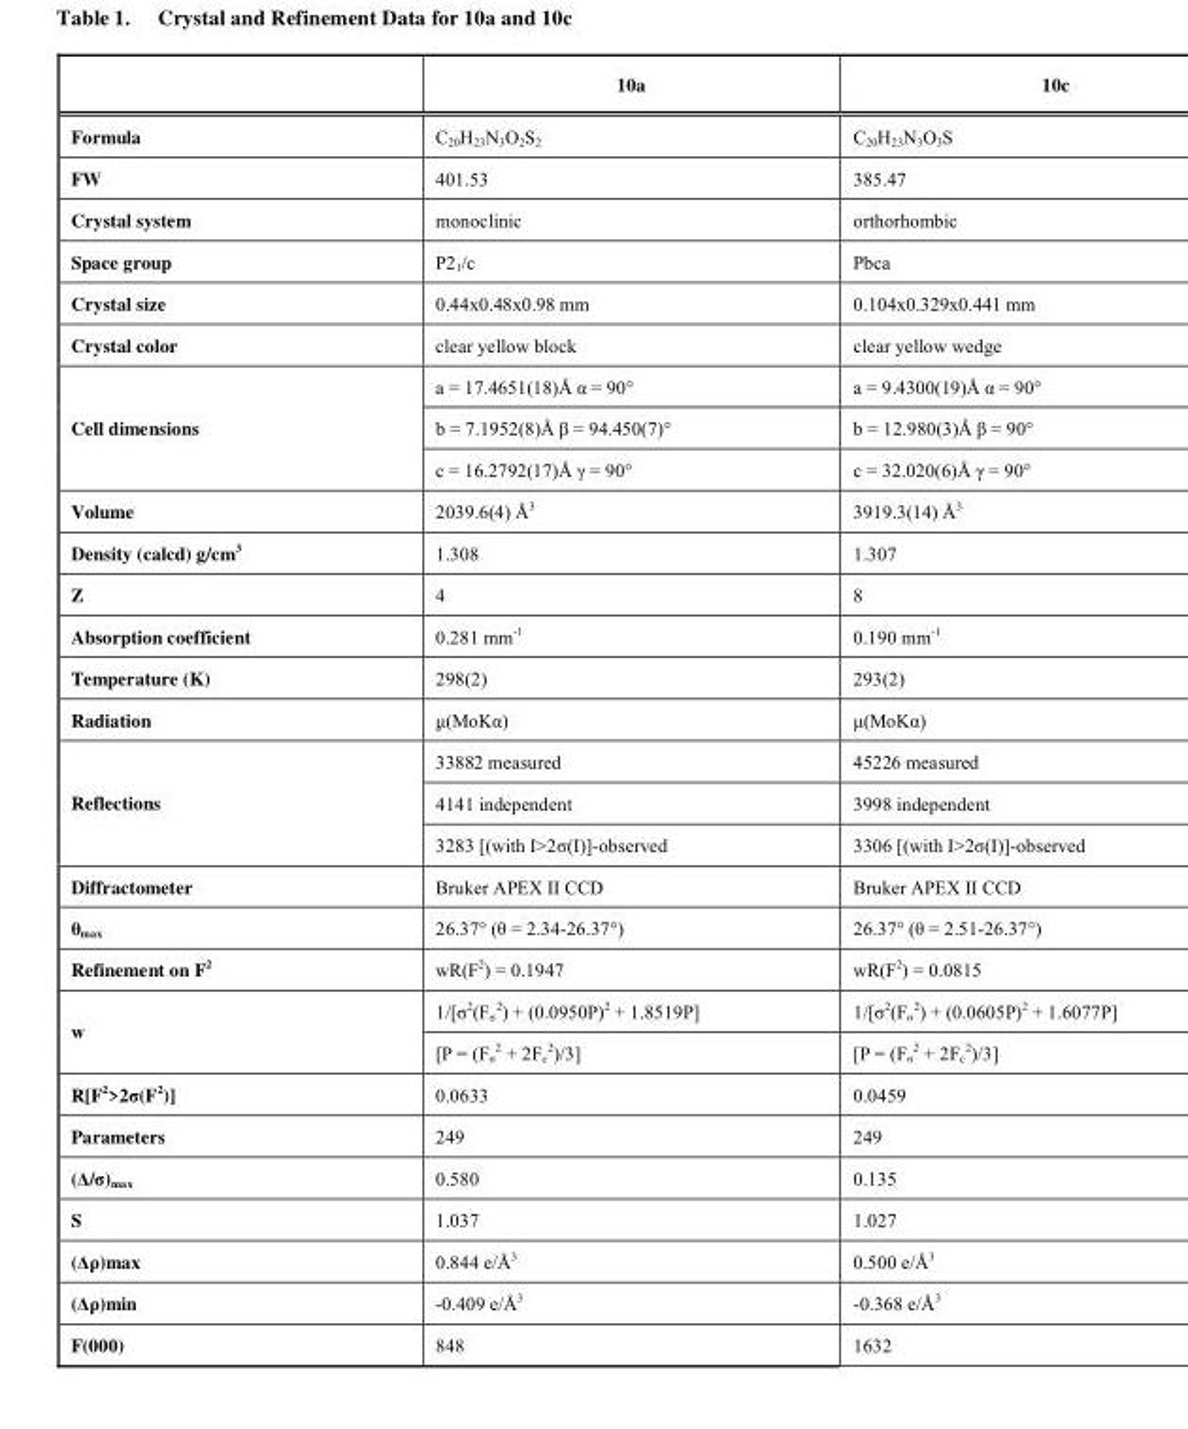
<table><thead><tr><td></td><td>10a</td><td>10c</td></tr></thead><tbody><tr><td>Formula</td><td>C20H23N3O2S2</td><td>C20H23N3O3S</td></tr><tr><td>FW</td><td>401.53</td><td>385.47</td></tr><tr><td>Crystal system</td><td>monoclinic</td><td>orthorhombic</td></tr><tr><td>Space group</td><td>P21/c</td><td>Pbca</td></tr><tr><td>Crystal size</td><td>0.44x0.48x0.98 mm</td><td>0.104x0.329x0.441 mm</td></tr><tr><td>Crystal color</td><td>clear yellow block</td><td>clear yellow wedge</td></tr><tr><td rowspan="3">Cell dimensions</td><td>a = 17.4651(18)Å α = 90°</td><td>a = 9.4300(19)Å α = 90°</td></tr><tr><td>b = 7.1952(8)Å β = 94.450(7)°</td><td>b = 12.980(3)Å β = 90°</td></tr><tr><td>c = 16.2792(17)Å γ = 90°</td><td>c = 32.020(6)Å γ = 90°</td></tr><tr><td>Volume</td><td>2039.6(4) Å3</td><td>3919.3(14) Å3</td></tr><tr><td>Density (calcd) g/cm3</td><td>1.308</td><td>1.307</td></tr><tr><td>Z</td><td>4</td><td>8</td></tr><tr><td>Absorption coefficient</td><td>0.281 mm-1</td><td>0.190 mm-1</td></tr><tr><td>Temperature (K)</td><td>298(2)</td><td>293(2)</td></tr><tr><td>Radiation</td><td>μ�(MoK�)</td><td>μ(MoKα)</td></tr><tr><td rowspan="3">Reflections</td><td>33882 measured</td><td>45226 measured</td></tr><tr><td>4141 independent</td><td>3998 independent</td></tr><tr><td>3283 [(with I&gt;2σ(I)]-observed</td><td>3306 [(with I&gt;2σ(I)]-observed</td></tr><tr><td>Diffractometer</td><td>Bruker APEX II CCD</td><td>Bruker APEX II CCD</td></tr><tr><td>θmax</td><td>26.37° (θ = 2.34-26.37°)</td><td>26.37° (θ = 2.51-26.37°)</td></tr><tr><td>Refinement on F2</td><td>wR(F2) = 0.1947</td><td>wR(F2) = 0.0815</td></tr><tr><td rowspan="2">w</td><td>1/[σ2(Fσ 2) + (0.0950P)2 + 1.8519P]</td><td>1/[σ2(Fσ 2) + (0.0605P)2 + 1.6077P]</td></tr><tr><td>[P = (Fσ 2 + 2Fc 2)/3]</td><td>[P = (Fσ 2 + 2Fc 2)/3]</td></tr><tr><td>R[F2&gt;2σ(F2)]</td><td>0.0633</td><td>0.0459</td></tr><tr><td>Parameters</td><td>249</td><td>249</td></tr><tr><td>(Δ/σ)max</td><td>0.580</td><td>0.135</td></tr><tr><td>S</td><td>1.037</td><td>1.027</td></tr><tr><td>(Δρ)max</td><td>0.844 e/Å3</td><td>0.500 e/Å3</td></tr><tr><td>(Δρ)min</td><td>-0.409 e/Å3</td><td>-0.368 e/Å3</td></tr><tr><td>F(000)</td><td>848</td><td>1632</td></tr></tbody></table>